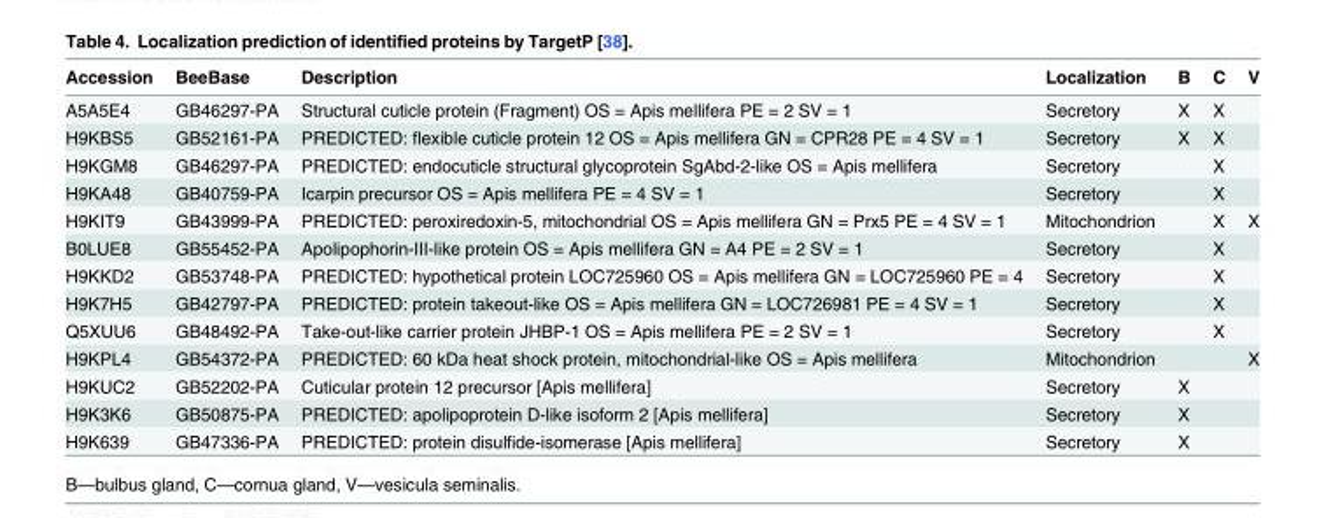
<table><thead><tr><td>Accession</td><td>BeeBase</td><td>Description</td><td>Localization</td><td>B</td><td>C</td><td>V</td></tr></thead><tbody><tr><td>A5A5E4</td><td>GB46297-PA</td><td>Structural cuticle protein (Fragment) OS = Apis mellifera PE = 2 SV = 1</td><td>Secretory</td><td>X</td><td>X</td><td></td></tr><tr><td>H9KBS5</td><td>GB52161-PA</td><td>PREDICTED: flexible cuticle protein 12 OS = Apis mellifera GN = CPR28 PE = 4 SV = 1</td><td>Secretory</td><td>X</td><td>X</td><td></td></tr><tr><td>H9KGM8</td><td>GB46297-PA</td><td>PREDICTED: endocuticle structural glycoprotein SgAbd-2-like OS = Apis mellifera</td><td>Secretory</td><td></td><td>X</td><td></td></tr><tr><td>H9KA48</td><td>GB40759-PA</td><td>Icarpin precursor OS = Apis mellifera PE = 4 SV = 1</td><td>Secretory</td><td></td><td>X</td><td></td></tr><tr><td>H9KIT9</td><td>GB43999-PA</td><td>PREDICTED: peroxiredoxin-5, mitochondrial OS = Apis mellifera GN = Prx5 PE = 4 SV = 1</td><td>Mitochondrion</td><td></td><td>X</td><td>X</td></tr><tr><td>B0LUE8</td><td>GB55452-PA</td><td>Apolipophorin-III-like protein OS = Apis mellifera GN = A4 PE = 2 SV = 1</td><td>Secretory</td><td></td><td>X</td><td></td></tr><tr><td>H9KKD2</td><td>GB53748-PA</td><td>PREDICTED: hypothetical protein LOC725960 OS = Apis mellifera GN = LOC725960 PE = 4</td><td>Secretory</td><td></td><td>X</td><td></td></tr><tr><td>H9K7H5</td><td>GB42797-PA</td><td>PREDICTED: protein takeout-like OS = Apis mellifera GN = LOC726981 PE = 4 SV = 1</td><td>Secretory</td><td></td><td>X</td><td></td></tr><tr><td>Q5XUU6</td><td>GB48492-PA</td><td>Take-out-like carrier protein JHBP-1 OS = Apis mellifera PE = 2 SV = 1</td><td>Secretory</td><td></td><td>X</td><td></td></tr><tr><td>H9KPL4</td><td>GB54372-PA</td><td>PREDICTED: 60 kDa heat shock protein, mitochondrial-like OS = Apis mellifera</td><td>Mitochondrion</td><td></td><td></td><td>X</td></tr><tr><td>H9KUC2</td><td>GB52202-PA</td><td>Cuticular protein 12 precursor [Apis mellifera]</td><td>Secretory</td><td>X</td><td></td><td></td></tr><tr><td>H9K3K6</td><td>GB50875-PA</td><td>PREDICTED: apolipoprotein D-like isoform 2 [Apis mellifera]</td><td>Secretory</td><td>X</td><td></td><td></td></tr><tr><td>H9K639</td><td>GB47336-PA</td><td>PREDICTED: protein disulfide-isomerase [Apis mellifera]</td><td>Secretory</td><td>X</td><td></td><td></td></tr></tbody></table>